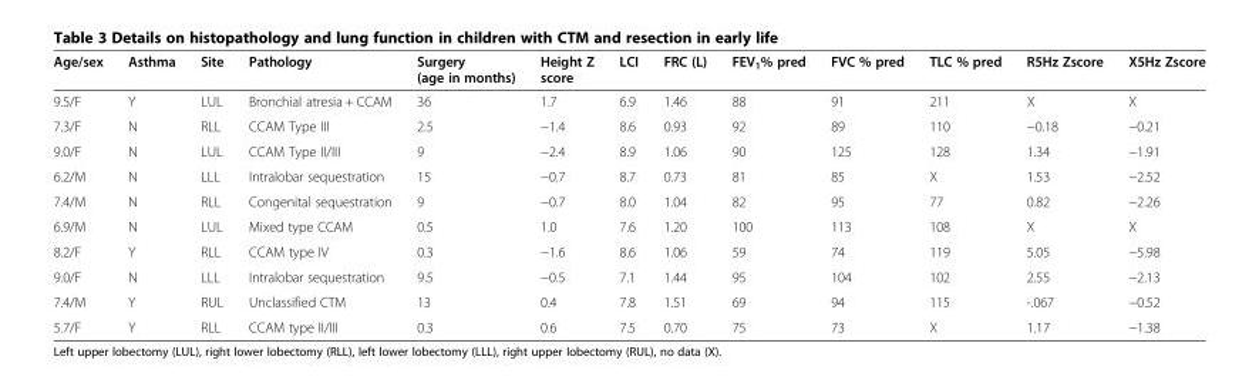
<table><thead><tr><td>Age/sex</td><td>Asthma</td><td>Site</td><td>Pathology</td><td>Surgery (age in months)</td><td>Height Z score</td><td>LCI</td><td>FRC (L)</td><td>FEV<sub>1</sub>% pred</td><td>FVC % pred</td><td>TLC % pred</td><td>R5Hz Zscore</td><td>X5Hz Zscore</td></tr></thead><tbody><tr><td>9.5/F</td><td>Y</td><td>LUL</td><td>Bronchial atresia + CCAM</td><td>36</td><td>1.7</td><td>6.9</td><td>1.46</td><td>88</td><td>91</td><td>211</td><td>X</td><td>X</td></tr><tr><td>7.3/F</td><td>N</td><td>RLL</td><td>CCAM Type III</td><td>2.5</td><td>−1.4</td><td>8.6</td><td>0.93</td><td>92</td><td>89</td><td>110</td><td>−0.18</td><td>−0.21</td></tr><tr><td>9.0/F</td><td>N</td><td>LUL</td><td>CCAM Type II/III</td><td>9</td><td>−2.4</td><td>8.9</td><td>1.06</td><td>90</td><td>125</td><td>128</td><td>1.34</td><td>−1.91</td></tr><tr><td>6.2/M</td><td>N</td><td>LLL</td><td>Intralobar sequestration</td><td>15</td><td>−0.7</td><td>8.7</td><td>0.73</td><td>81</td><td>85</td><td>X</td><td>1.53</td><td>−2.52</td></tr><tr><td>7.4/M</td><td>N</td><td>RLL</td><td>Congenital sequestration</td><td>9</td><td>−0.7</td><td>8.0</td><td>1.04</td><td>82</td><td>95</td><td>77</td><td>0.82</td><td>−2.26</td></tr><tr><td>6.9/M</td><td>N</td><td>LUL</td><td>Mixed type CCAM</td><td>0.5</td><td>1.0</td><td>7.6</td><td>1.20</td><td>100</td><td>113</td><td>108</td><td>X</td><td>X</td></tr><tr><td>8.2/F</td><td>Y</td><td>RLL</td><td>CCAM type IV</td><td>0.3</td><td>−1.6</td><td>8.6</td><td>1.06</td><td>59</td><td>74</td><td>119</td><td>5.05</td><td>−5.98</td></tr><tr><td>9.0/F</td><td>N</td><td>LLL</td><td>Intralobar sequestration</td><td>9.5</td><td>−0.5</td><td>7.1</td><td>1.44</td><td>95</td><td>104</td><td>102</td><td>2.55</td><td>−2.13</td></tr><tr><td>7.4/M</td><td>Y</td><td>RUL</td><td>Unclassified CTM</td><td>13</td><td>0.4</td><td>7.8</td><td>1.51</td><td>69</td><td>94</td><td>115</td><td>-.067</td><td>−0.52</td></tr><tr><td>5.7/F</td><td>Y</td><td>RLL</td><td>CCAM type II/III</td><td>0.3</td><td>0.6</td><td>7.5</td><td>0.70</td><td>75</td><td>73</td><td>X</td><td>1.17</td><td>−1.38</td></tr></tbody></table>